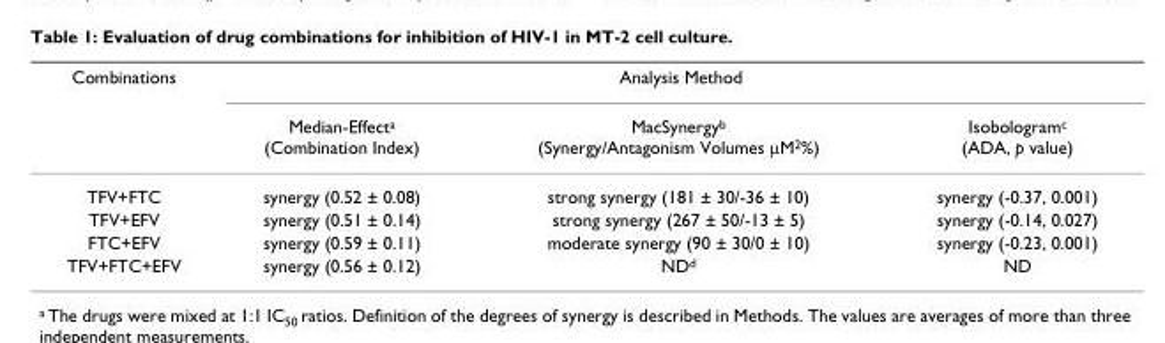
<table><thead><tr><td rowspan="2">Combinations</td><td colspan="3">Analysis Method</td></tr><tr><td>Median-Effect<sup>a</sup> (Combination Index)</td><td>MacSynergy<sup>b</sup> (Synergy/Antagonism Volumes μM<sup>2</sup>%)</td><td>Isobologram<sup>c</sup> (ADA, p value)</td></tr></thead><tbody><tr><td>TFV+FTC</td><td>synergy (0.52 ± 0.08)</td><td>strong synergy (181 ± 30/-36 ± 10)</td><td>synergy (-0.37, 0.001)</td></tr><tr><td>TFV+EFV</td><td>synergy (0.51 ± 0.14)</td><td>strong synergy (267 ± 50/-13 ± 5)</td><td>synergy (-0.14, 0.027)</td></tr><tr><td>FTC+EFV</td><td>synergy (0.59 ± 0.11)</td><td>moderate synergy (90 ± 30/0 ± 10)</td><td>synergy (-0.23, 0.001)</td></tr><tr><td>TFV+FTC+EFV</td><td>synergy (0.56 ± 0.12)</td><td>ND<sup>d</sup></td><td>ND</td></tr></tbody></table>